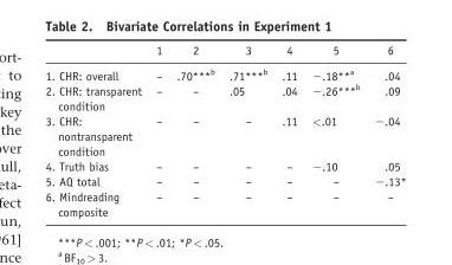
<table><thead><tr><td></td><td>1</td><td>2</td><td>3</td><td>4</td><td>5</td><td>6</td></tr></thead><tbody><tr><td>1. CHR: overall</td><td>–</td><td>.70***<sup>b</sup></td><td>.71***<sup>b</sup></td><td>.11</td><td>−.18**<sup>a</sup></td><td>.04</td></tr><tr><td>2. CHR: transparent condition</td><td>–</td><td>–</td><td>.05</td><td>.04</td><td>−.26***<sup>b</sup></td><td>.09</td></tr><tr><td>3. CHR: nontransparent condition</td><td>–</td><td>–</td><td>–</td><td>.11</td><td>&lt;.01</td><td>−.04</td></tr><tr><td>4. Truth bias</td><td>–</td><td>–</td><td>–</td><td>–</td><td>−.10</td><td>.05</td></tr><tr><td>5. AQ total</td><td>–</td><td>–</td><td>–</td><td>–</td><td>–</td><td>−.13*</td></tr><tr><td>6. Mindreading composite</td><td>–</td><td>–</td><td>–</td><td>–</td><td>–</td><td>–</td></tr></tbody></table>